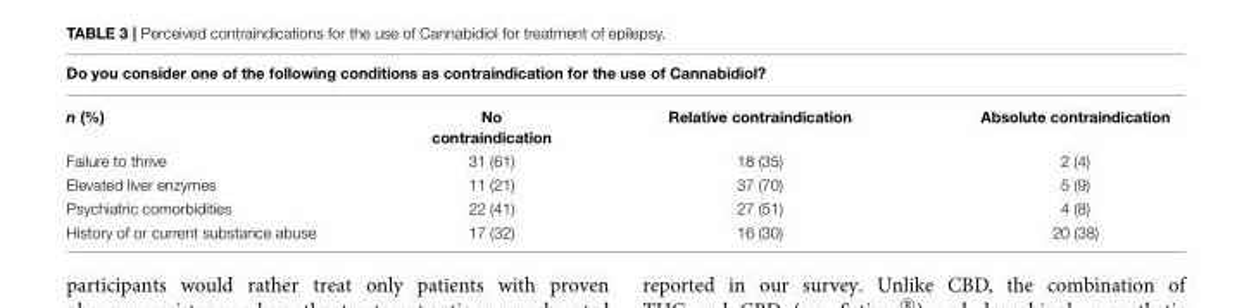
<table><thead><tr><td colspan="4">Do you consider one of the following conditions as contraindication for the use of Cannabidiol?</td></tr><tr><td>n (%)</td><td>No contraindication</td><td>Relative contraindication</td><td>Absolute contraindication</td></tr></thead><tbody><tr><td>Failure to thrive</td><td>31 (61)</td><td>18 (35)</td><td>2 (4)</td></tr><tr><td>Elevated liver enzymes</td><td>11 (21)</td><td>37 (70)</td><td>5 (9)</td></tr><tr><td>Psychiatric comorbidities</td><td>22 (41)</td><td>27 (51)</td><td>4 (8)</td></tr><tr><td>History of or current substance abuse</td><td>17 (32)</td><td>16 (30)</td><td>20 (38)</td></tr></tbody></table>